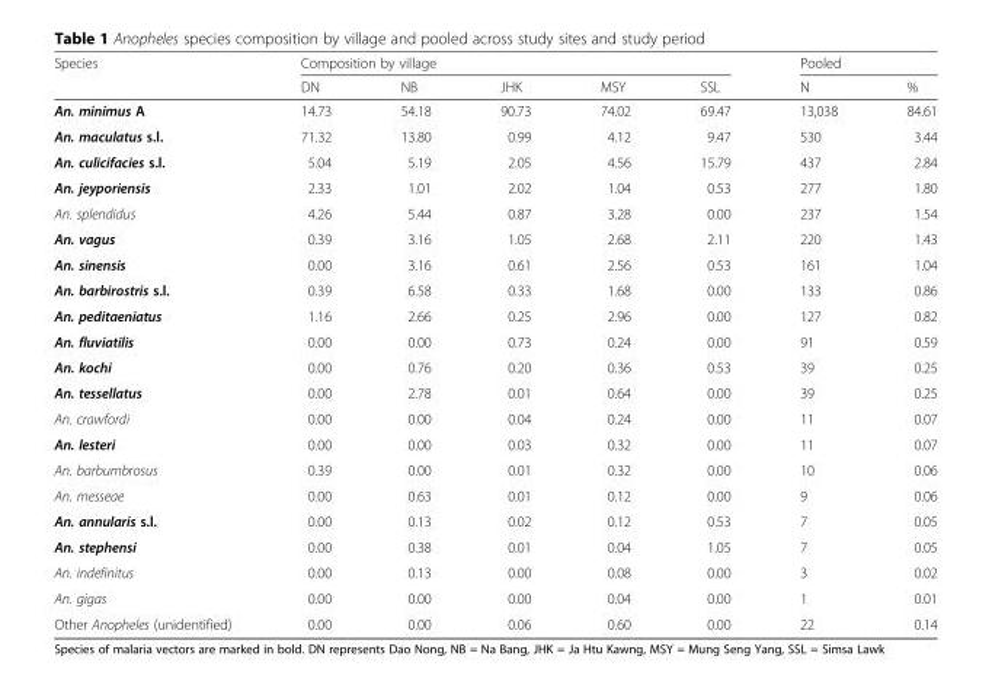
<table><thead><tr><td rowspan="2">Species</td><td colspan="5">Composition by village</td><td colspan="2">Pooled</td></tr><tr><td>DN</td><td>NB</td><td>JHK</td><td>MSY</td><td>SSL</td><td>N</td><td>%</td></tr></thead><tbody><tr><td>An. minimus A</td><td>14.73</td><td>54.18</td><td>90.73</td><td>74.02</td><td>69.47</td><td>13,038</td><td>84.61</td></tr><tr><td>An. maculatus s.l.</td><td>71.32</td><td>13.80</td><td>0.99</td><td>4.12</td><td>9.47</td><td>530</td><td>3.44</td></tr><tr><td>An. culicifacies s.l.</td><td>5.04</td><td>5.19</td><td>2.05</td><td>4.56</td><td>15.79</td><td>437</td><td>2.84</td></tr><tr><td>An. jeyporiensis</td><td>2.33</td><td>1.01</td><td>2.02</td><td>1.04</td><td>0.53</td><td>277</td><td>1.80</td></tr><tr><td>An. splendidus</td><td>4.26</td><td>5.44</td><td>0.87</td><td>3.28</td><td>0.00</td><td>237</td><td>1.54</td></tr><tr><td>An. vagus</td><td>0.39</td><td>3.16</td><td>1.05</td><td>2.68</td><td>2.11</td><td>220</td><td>1.43</td></tr><tr><td>An. sinensis</td><td>0.00</td><td>3.16</td><td>0.61</td><td>2.56</td><td>0.53</td><td>161</td><td>1.04</td></tr><tr><td>An. barbirostris s.l.</td><td>0.39</td><td>6.58</td><td>0.33</td><td>1.68</td><td>0.00</td><td>133</td><td>0.86</td></tr><tr><td>An. peditaeniatus</td><td>1.16</td><td>2.66</td><td>0.25</td><td>2.96</td><td>0.00</td><td>127</td><td>0.82</td></tr><tr><td>An. fluviatilis</td><td>0.00</td><td>0.00</td><td>0.73</td><td>0.24</td><td>0.00</td><td>91</td><td>0.59</td></tr><tr><td>An. kochi</td><td>0.00</td><td>0.76</td><td>0.20</td><td>0.36</td><td>0.53</td><td>39</td><td>0.25</td></tr><tr><td>An. tessellatus</td><td>0.00</td><td>2.78</td><td>0.01</td><td>0.64</td><td>0.00</td><td>39</td><td>0.25</td></tr><tr><td>An. crawfordi</td><td>0.00</td><td>0.00</td><td>0.04</td><td>0.24</td><td>0.00</td><td>11</td><td>0.07</td></tr><tr><td>An. lesteri</td><td>0.00</td><td>0.00</td><td>0.03</td><td>0.32</td><td>0.00</td><td>11</td><td>0.07</td></tr><tr><td>An. barbumbrosus</td><td>0.39</td><td>0.00</td><td>0.01</td><td>0.32</td><td>0.00</td><td>10</td><td>0.06</td></tr><tr><td>An. messeae</td><td>0.00</td><td>0.63</td><td>0.01</td><td>0.12</td><td>0.00</td><td>9</td><td>0.06</td></tr><tr><td>An. annularis s.l.</td><td>0.00</td><td>0.13</td><td>0.02</td><td>0.12</td><td>0.53</td><td>7</td><td>0.05</td></tr><tr><td>An. stephensi</td><td>0.00</td><td>0.38</td><td>0.01</td><td>0.04</td><td>1.05</td><td>7</td><td>0.05</td></tr><tr><td>An. indefinitus</td><td>0.00</td><td>0.13</td><td>0.00</td><td>0.08</td><td>0.00</td><td>3</td><td>0.02</td></tr><tr><td>An. gigas</td><td>0.00</td><td>0.00</td><td>0.00</td><td>0.04</td><td>0.00</td><td>1</td><td>0.01</td></tr><tr><td>Other Anopheles (unidentified)</td><td>0.00</td><td>0.00</td><td>0.06</td><td>0.60</td><td>0.00</td><td>22</td><td>0.14</td></tr></tbody></table>